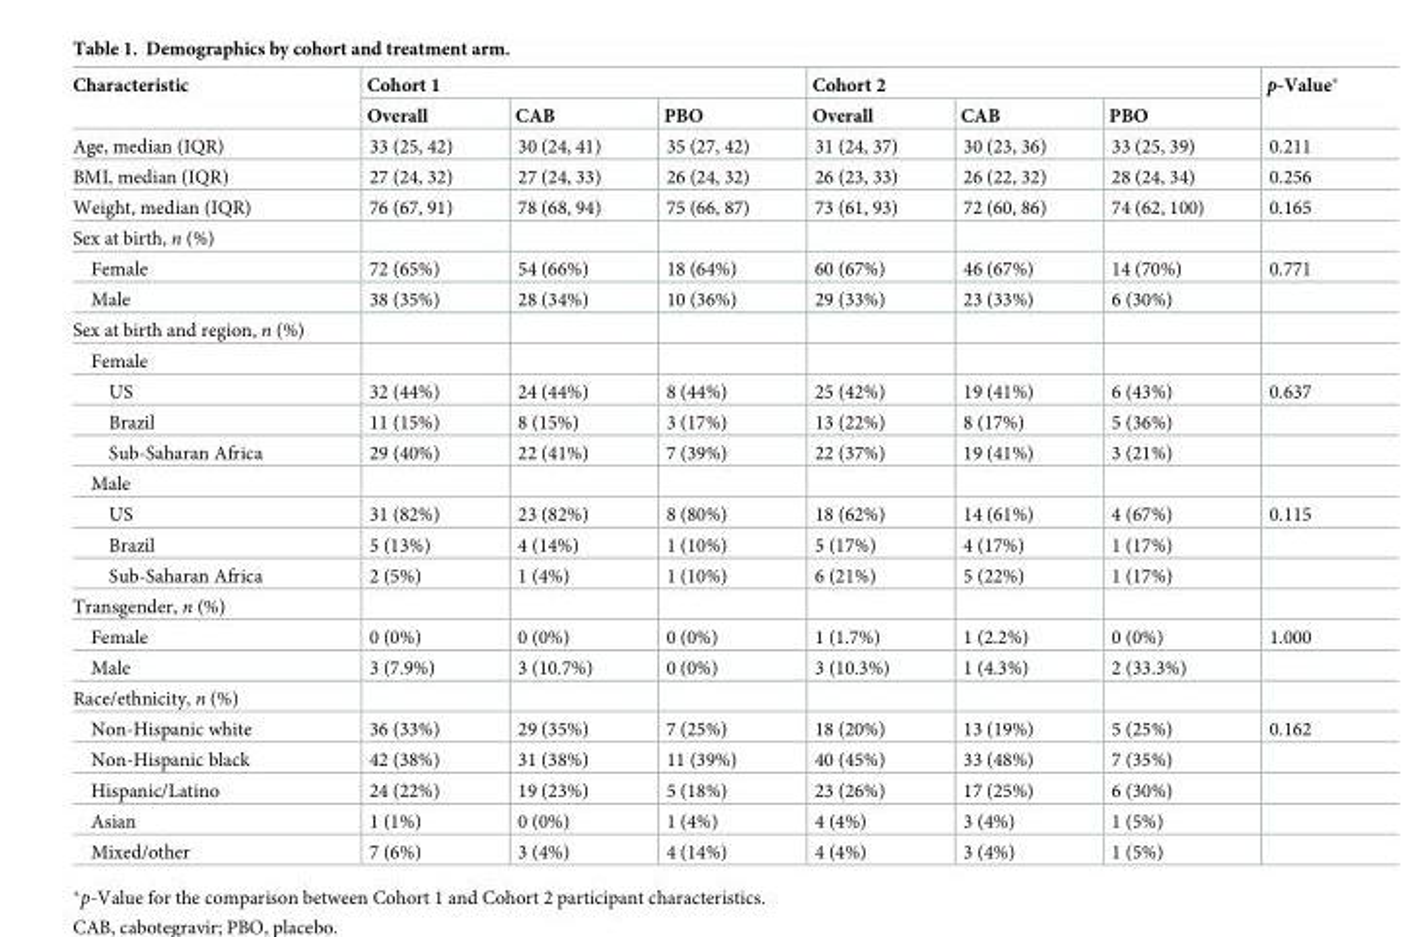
<table><thead><tr><td rowspan="2">Characteristic</td><td colspan="3">Cohort 1</td><td colspan="3">Cohort 2</td><td rowspan="2">p-Value*</td></tr><tr><td>Overall</td><td>CAB</td><td>PBO</td><td>Overall</td><td>CAB</td><td>PBO</td></tr></thead><tbody><tr><td>Age, median (IQR)</td><td>33 (25, 42)</td><td>30 (24, 41)</td><td>35 (27, 42)</td><td>31 (24, 37)</td><td>30 (23, 36)</td><td>33 (25, 39)</td><td>0.211</td></tr><tr><td>BMI, median (IQR)</td><td>27 (24, 32)</td><td>27 (24, 33)</td><td>26 (24, 32)</td><td>26 (23, 33)</td><td>26 (22, 32)</td><td>28 (24, 34)</td><td>0.256</td></tr><tr><td>Weight, median (IQR)</td><td>76 (67, 91)</td><td>78 (68, 94)</td><td>75 (66, 87)</td><td>73 (61, 93)</td><td>72 (60, 86)</td><td>74 (62, 100)</td><td>0.165</td></tr><tr><td colspan="8">Sex at birth, n (%)</td></tr><tr><td>Female</td><td>72 (65%)</td><td>54 (66%)</td><td>18 (64%)</td><td>60 (67%)</td><td>46 (67%)</td><td>14 (70%)</td><td>0.771</td></tr><tr><td>Male</td><td>38 (35%)</td><td>28 (34%)</td><td>10 (36%)</td><td>29 (33%)</td><td>23 (33%)</td><td>6 (30%)</td><td></td></tr><tr><td colspan="8">Sex at birth and region, n (%)</td></tr><tr><td colspan="8">Female</td></tr><tr><td>US</td><td>32 (44%)</td><td>24 (44%)</td><td>8 (44%)</td><td>25 (42%)</td><td>19 (41%)</td><td>6 (43%)</td><td>0.637</td></tr><tr><td>Brazil</td><td>11 (15%)</td><td>8 (15%)</td><td>3 (17%)</td><td>13 (22%)</td><td>8 (17%)</td><td>5 (36%)</td><td></td></tr><tr><td>Sub-Saharan Africa</td><td>29 (40%)</td><td>22 (41%)</td><td>7 (39%)</td><td>22 (37%)</td><td>19 (41%)</td><td>3 (21%)</td><td></td></tr><tr><td colspan="8">Male</td></tr><tr><td>US</td><td>31 (82%)</td><td>23 (82%)</td><td>8 (80%)</td><td>18 (62%)</td><td>14 (61%)</td><td>4 (67%)</td><td>0.115</td></tr><tr><td>Brazil</td><td>5 (13%)</td><td>4 (14%)</td><td>1 (10%)</td><td>5 (17%)</td><td>4 (17%)</td><td>1 (17%)</td><td></td></tr><tr><td>Sub-Saharan Africa</td><td>2 (5%)</td><td>1 (4%)</td><td>1 (10%)</td><td>6 (21%)</td><td>5 (22%)</td><td>1 (17%)</td><td></td></tr><tr><td colspan="8">Transgender, n (%)</td></tr><tr><td>Female</td><td>0 (0%)</td><td>0 (0%)</td><td>0 (0%)</td><td>1 (1.7%)</td><td>1 (2.2%)</td><td>0 (0%)</td><td>1.000</td></tr><tr><td>Male</td><td>3 (7.9%)</td><td>3 (10.7%)</td><td>0 (0%)</td><td>3 (10.3%)</td><td>1 (4.3%)</td><td>2 (33.3%)</td><td></td></tr><tr><td colspan="8">Race/ethnicity, n (%)</td></tr><tr><td>Non-Hispanic white</td><td>36 (33%)</td><td>29 (35%)</td><td>7 (25%)</td><td>18 (20%)</td><td>13 (19%)</td><td>5 (25%)</td><td>0.162</td></tr><tr><td>Non-Hispanic black</td><td>42 (38%)</td><td>31 (38%)</td><td>11 (39%)</td><td>40 (45%)</td><td>33 (48%)</td><td>7 (35%)</td><td></td></tr><tr><td>Hispanic/Latino</td><td>24 (22%)</td><td>19 (23%)</td><td>5 (18%)</td><td>23 (26%)</td><td>17 (25%)</td><td>6 (30%)</td><td></td></tr><tr><td>Asian</td><td>1 (1%)</td><td>0 (0%)</td><td>1 (4%)</td><td>4 (4%)</td><td>3 (4%)</td><td>1 (5%)</td><td></td></tr><tr><td>Mixed/other</td><td>7 (6%)</td><td>3 (4%)</td><td>4 (14%)</td><td>4 (4%)</td><td>3 (4%)</td><td>1 (5%)</td><td></td></tr></tbody></table>